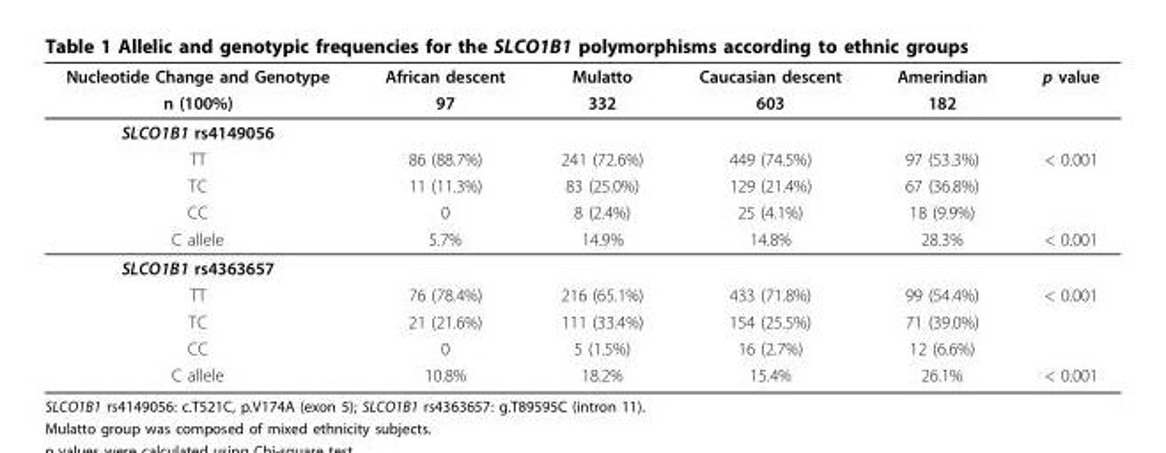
<table><thead><tr><td rowspan="2">Nucleotide Change and Genotype n (100%)</td><td rowspan="2">African descent 97</td><td rowspan="2">Mulatto 332</td><td rowspan="2">Caucasian descent 603</td><td rowspan="2">Amerindian 182</td><td rowspan="2">p value</td></tr><tr></tr></thead><tbody><tr><td colspan="6">SLCO1B1 rs4149056</td></tr><tr><td>TT</td><td>86 (88.7%)</td><td>241 (72.6%)</td><td>449 (74.5%)</td><td>97 (53.3%)</td><td>&lt; 0.001</td></tr><tr><td>TC</td><td>11 (11.3%)</td><td>83 (25.0%)</td><td>129 (21.4%)</td><td>67 (36.8%)</td><td></td></tr><tr><td>CC</td><td>0</td><td>8 (2.4%)</td><td>25 (4.1%)</td><td>18 (9.9%)</td><td></td></tr><tr><td>C allele</td><td>5.7%</td><td>14.9%</td><td>14.8%</td><td>28.3%</td><td>&lt; 0.001</td></tr><tr><td colspan="6">SLCO1B1 rs4363657</td></tr><tr><td>TT</td><td>76 (78.4%)</td><td>216 (65.1%)</td><td>433 (71.8%)</td><td>99 (54.4%)</td><td>&lt; 0.001</td></tr><tr><td>TC</td><td>21 (21.6%)</td><td>111 (33.4%)</td><td>154 (25.5%)</td><td>71 (39.0%)</td><td></td></tr><tr><td>CC</td><td>0</td><td>5 (1.5%)</td><td>16 (2.7%)</td><td>12 (6.6%)</td><td></td></tr><tr><td>C allele</td><td>10.8%</td><td>18.2%</td><td>15.4%</td><td>26.1%</td><td>&lt; 0.001</td></tr></tbody></table>